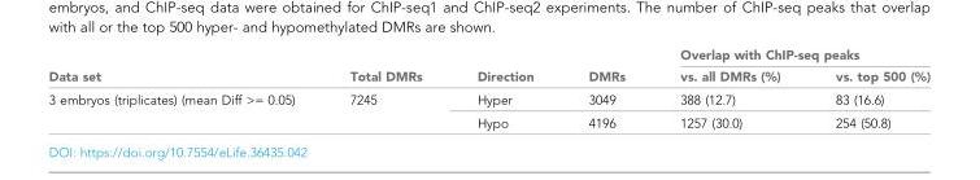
<table><thead><tr><td rowspan="2">Data set</td><td rowspan="2">Total DMRs</td><td rowspan="2">Direction</td><td rowspan="2">DMRs</td><td colspan="2">Overlap with ChIP-seq peaks</td></tr><tr><td>vs. all DMRs (%)</td><td>vs. top 500 (%)</td></tr></thead><tbody><tr><td rowspan="2">3 embryos (triplicates) (mean Diff &gt;= 0.05)</td><td rowspan="2">7245</td><td>Hyper</td><td>3049</td><td>388 (12.7)</td><td>83 (16.6)</td></tr><tr><td>Hypo</td><td>4196</td><td>1257 (30.0)</td><td>254 (50.8)</td></tr></tbody></table>